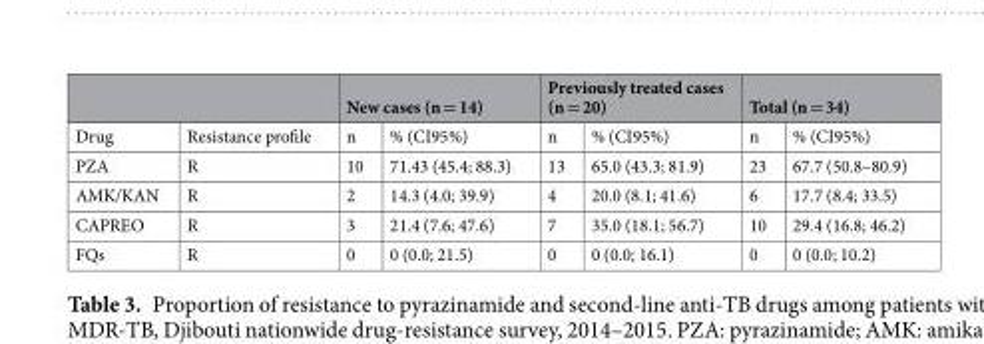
<table><thead><tr><td rowspan="2">Drug</td><td rowspan="2">Resistance profile</td><td colspan="2">New cases (n = 14)</td><td colspan="2">Previously treated cases (n = 20)</td><td colspan="2">Total (n = 34)</td></tr><tr><td>n</td><td>% (CI95%)</td><td>n</td><td>% (CI95%)</td><td>n</td><td>% (CI95%)</td></tr></thead><tbody><tr><td>PZA</td><td>R</td><td>10</td><td>71.43 (45.4; 88.3)</td><td>13</td><td>65.0 (43.3; 81.9)</td><td>23</td><td>67.7 (50.8–80.9)</td></tr><tr><td>AMK/KAN</td><td>R</td><td>2</td><td>14.3 (4.0; 39.9)</td><td>4</td><td>20.0 (8.1; 41.6)</td><td>6</td><td>17.7 (8.4; 33.5)</td></tr><tr><td>CAPREO</td><td>R</td><td>3</td><td>21.4 (7.6; 47.6)</td><td>7</td><td>35.0 (18.1; 56.7)</td><td>10</td><td>29.4 (16.8; 46.2)</td></tr><tr><td>FQs</td><td>R</td><td>0</td><td>0 (0.0; 21.5)</td><td>0</td><td>0 (0.0; 16.1)</td><td>0</td><td>0 (0.0; 10.2)</td></tr></tbody></table>